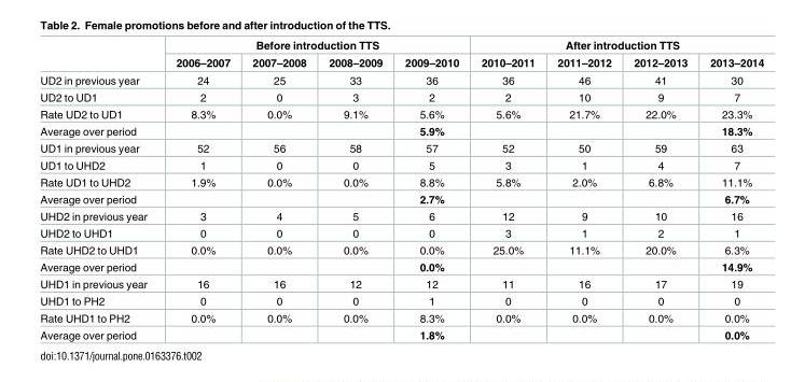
<table><thead><tr><td rowspan="2"></td><td colspan="4">Before introduction TTS</td><td colspan="4">After introduction TTS</td></tr><tr><td>2006–2007</td><td>2007–2008</td><td>2008–2009</td><td>2009–2010</td><td>2010–2011</td><td>2011–2012</td><td>2012–2013</td><td>2013–2014</td></tr></thead><tbody><tr><td>UD2 in previous year</td><td>24</td><td>25</td><td>33</td><td>36</td><td>36</td><td>46</td><td>41</td><td>30</td></tr><tr><td>UD2 to UD1</td><td>2</td><td>0</td><td>3</td><td>2</td><td>2</td><td>10</td><td>9</td><td>7</td></tr><tr><td>Rate UD2 to UD1</td><td>8.3%</td><td>0.0%</td><td>9.1%</td><td>5.6%</td><td>5.6%</td><td>21.7%</td><td>22.0%</td><td>23.3%</td></tr><tr><td>Average over period</td><td></td><td></td><td></td><td>5.9%</td><td></td><td></td><td></td><td>18.3%</td></tr><tr><td>UD1 in previous year</td><td>52</td><td>56</td><td>58</td><td>57</td><td>52</td><td>50</td><td>59</td><td>63</td></tr><tr><td>UD1 to UHD2</td><td>1</td><td>0</td><td>0</td><td>5</td><td>3</td><td>1</td><td>4</td><td>7</td></tr><tr><td>Rate UD1 to UHD2</td><td>1.9%</td><td>0.0%</td><td>0.0%</td><td>8.8%</td><td>5.8%</td><td>2.0%</td><td>6.8%</td><td>11.1%</td></tr><tr><td>Average over period</td><td></td><td></td><td></td><td>2.7%</td><td></td><td></td><td></td><td>6.7%</td></tr><tr><td>UHD2 in previous year</td><td>3</td><td>4</td><td>5</td><td>6</td><td>12</td><td>9</td><td>10</td><td>16</td></tr><tr><td>UHD2 to UHD1</td><td>0</td><td>0</td><td>0</td><td>0</td><td>3</td><td>1</td><td>2</td><td>1</td></tr><tr><td>Rate UHD2 to UHD1</td><td>0.0%</td><td>0.0%</td><td>0.0%</td><td>0.0%</td><td>25.0%</td><td>11.1%</td><td>20.0%</td><td>6.3%</td></tr><tr><td>Average over period</td><td></td><td></td><td></td><td>0.0%</td><td></td><td></td><td></td><td>14.9%</td></tr><tr><td>UHD1 in previous year</td><td>16</td><td>16</td><td>12</td><td>12</td><td>11</td><td>16</td><td>17</td><td>19</td></tr><tr><td>UHD1 to PH2</td><td>0</td><td>0</td><td>0</td><td>1</td><td>0</td><td>0</td><td>0</td><td>0</td></tr><tr><td>Rate UHD1 to PH2</td><td>0.0%</td><td>0.0%</td><td>0.0%</td><td>8.3%</td><td>0.0%</td><td>0.0%</td><td>0.0%</td><td>0.0%</td></tr><tr><td>Average over period</td><td></td><td></td><td></td><td>1.8%</td><td></td><td></td><td></td><td>0.0%</td></tr></tbody></table>